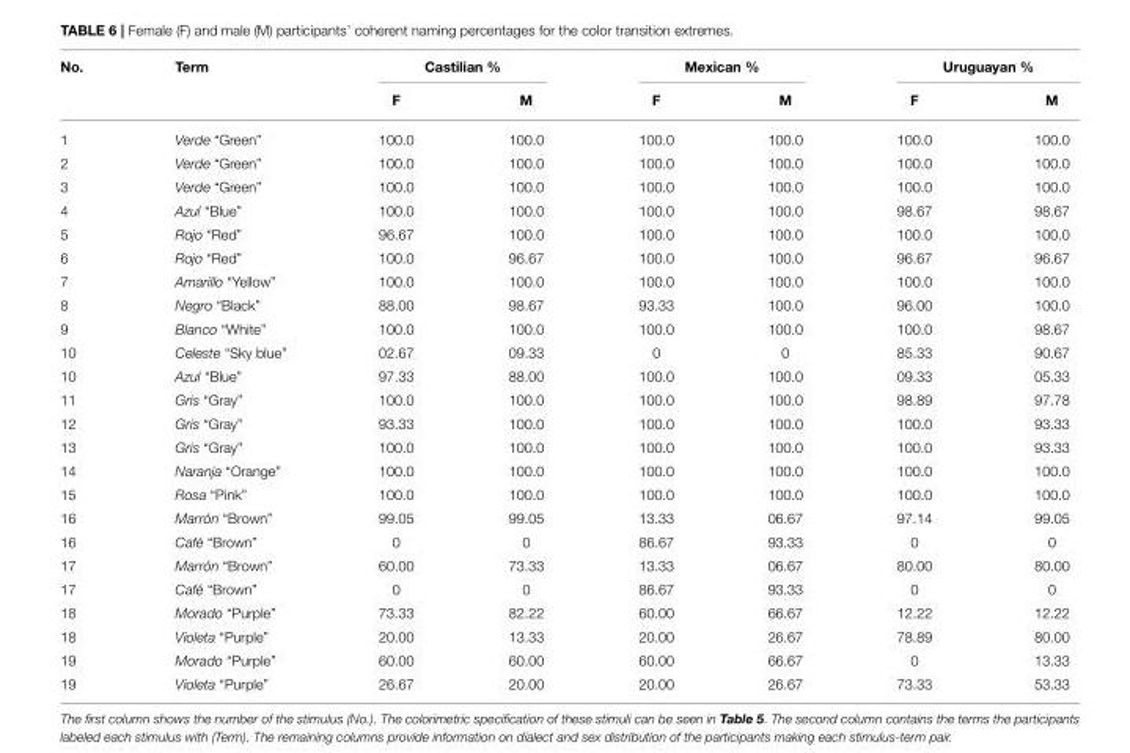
<table><thead><tr><td rowspan="2">No.</td><td rowspan="2">Term</td><td colspan="2">Castilian %</td><td colspan="2">Mexican %</td><td colspan="2">Uruguayan %</td></tr><tr><td>F</td><td>M</td><td>F</td><td>M</td><td>F</td><td>M</td></tr></thead><tbody><tr><td>1</td><td>Verde “Green”</td><td>100.0</td><td>100.0</td><td>100.0</td><td>100.0</td><td>100.0</td><td>100.0</td></tr><tr><td>2</td><td>Verde “Green”</td><td>100.0</td><td>100.0</td><td>100.0</td><td>100.0</td><td>100.0</td><td>100.0</td></tr><tr><td>3</td><td>Verde “Green”</td><td>100.0</td><td>100.0</td><td>100.0</td><td>100.0</td><td>100.0</td><td>100.0</td></tr><tr><td>4</td><td>Azul “Blue”</td><td>100.0</td><td>100.0</td><td>100.0</td><td>100.0</td><td>98.67</td><td>98.67</td></tr><tr><td>5</td><td>Rojo “Red”</td><td>96.67</td><td>100.0</td><td>100.0</td><td>100.0</td><td>100.0</td><td>100.0</td></tr><tr><td>6</td><td>Rojo “Red”</td><td>100.0</td><td>96.67</td><td>100.0</td><td>100.0</td><td>96.67</td><td>96.67</td></tr><tr><td>7</td><td>Amarillo “Yellow”</td><td>100.0</td><td>100.0</td><td>100.0</td><td>100.0</td><td>100.0</td><td>100.0</td></tr><tr><td>8</td><td>Negro “Black”</td><td>88.00</td><td>98.67</td><td>93.33</td><td>100.0</td><td>96.00</td><td>100.0</td></tr><tr><td>9</td><td>Blanco “White”</td><td>100.0</td><td>100.0</td><td>100.0</td><td>100.0</td><td>100.0</td><td>98.67</td></tr><tr><td>10</td><td>Celeste “Sky blue”</td><td>02.67</td><td>09.33</td><td>0</td><td>0</td><td>85.33</td><td>90.67</td></tr><tr><td>10</td><td>Azul “Blue”</td><td>97.33</td><td>88.00</td><td>100.0</td><td>100.0</td><td>09.33</td><td>05.33</td></tr><tr><td>11</td><td>Gris “Gray”</td><td>100.0</td><td>100.0</td><td>100.0</td><td>100.0</td><td>98.89</td><td>97.78</td></tr><tr><td>12</td><td>Gris “Gray”</td><td>93.33</td><td>100.0</td><td>100.0</td><td>100.0</td><td>100.0</td><td>93.33</td></tr><tr><td>13</td><td>Gris “Gray”</td><td>100.0</td><td>100.0</td><td>100.0</td><td>100.0</td><td>100.0</td><td>93.33</td></tr><tr><td>14</td><td>Naranja “Orange”</td><td>100.0</td><td>100.0</td><td>100.0</td><td>100.0</td><td>100.0</td><td>100.0</td></tr><tr><td>15</td><td>Rosa “Pink”</td><td>100.0</td><td>100.0</td><td>100.0</td><td>100.0</td><td>100.0</td><td>100.0</td></tr><tr><td>16</td><td>Marrón “Brown”</td><td>99.05</td><td>99.05</td><td>13.33</td><td>06.67</td><td>97.14</td><td>99.05</td></tr><tr><td>16</td><td>Café “Brown”</td><td>0</td><td>0</td><td>86.67</td><td>93.33</td><td>0</td><td>0</td></tr><tr><td>17</td><td>Marrón “Brown”</td><td>60.00</td><td>73.33</td><td>13.33</td><td>06.67</td><td>80.00</td><td>80.00</td></tr><tr><td>17</td><td>Café “Brown”</td><td>0</td><td>0</td><td>86.67</td><td>93.33</td><td>0</td><td>0</td></tr><tr><td>18</td><td>Morado “Purple”</td><td>73.33</td><td>82.22</td><td>60.00</td><td>66.67</td><td>12.22</td><td>12.22</td></tr><tr><td>18</td><td>Violeta “Purple”</td><td>20.00</td><td>13.33</td><td>20.00</td><td>26.67</td><td>78.89</td><td>80.00</td></tr><tr><td>19</td><td>Morado “Purple”</td><td>60.00</td><td>60.00</td><td>60.00</td><td>66.67</td><td>0</td><td>13.33</td></tr><tr><td>19</td><td>Violeta “Purple”</td><td>26.67</td><td>20.00</td><td>20.00</td><td>26.67</td><td>73.33</td><td>53.33</td></tr></tbody></table>